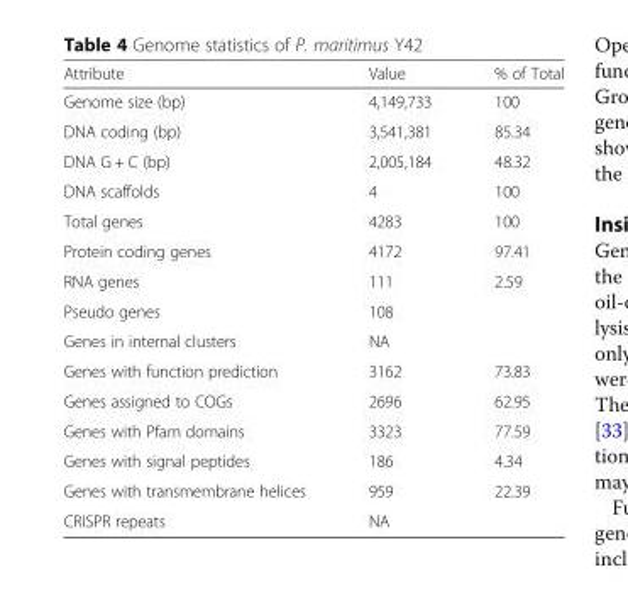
<table><thead><tr><td>Attribute</td><td>Value</td><td>% of Total</td></tr></thead><tbody><tr><td>Genome size (bp)</td><td>4,149,733</td><td>100</td></tr><tr><td>DNA coding (bp)</td><td>3,541,381</td><td>85.34</td></tr><tr><td>DNA G + C (bp)</td><td>2,005,184</td><td>48.32</td></tr><tr><td>DNA scaffolds</td><td>4</td><td>100</td></tr><tr><td>Total genes</td><td>4283</td><td>100</td></tr><tr><td>Protein coding genes</td><td>4172</td><td>97.41</td></tr><tr><td>RNA genes</td><td>111</td><td>2.59</td></tr><tr><td>Pseudo genes</td><td>108</td><td></td></tr><tr><td>Genes in internal clusters</td><td>NA</td><td></td></tr><tr><td>Genes with function prediction</td><td>3162</td><td>73.83</td></tr><tr><td>Genes assigned to COGs</td><td>2696</td><td>62.95</td></tr><tr><td>Genes with Pfam domains</td><td>3323</td><td>77.59</td></tr><tr><td>Genes with signal peptides</td><td>186</td><td>4.34</td></tr><tr><td>Genes with transmembrane helices</td><td>959</td><td>22.39</td></tr><tr><td>CRISPR repeats</td><td>NA</td><td></td></tr></tbody></table>